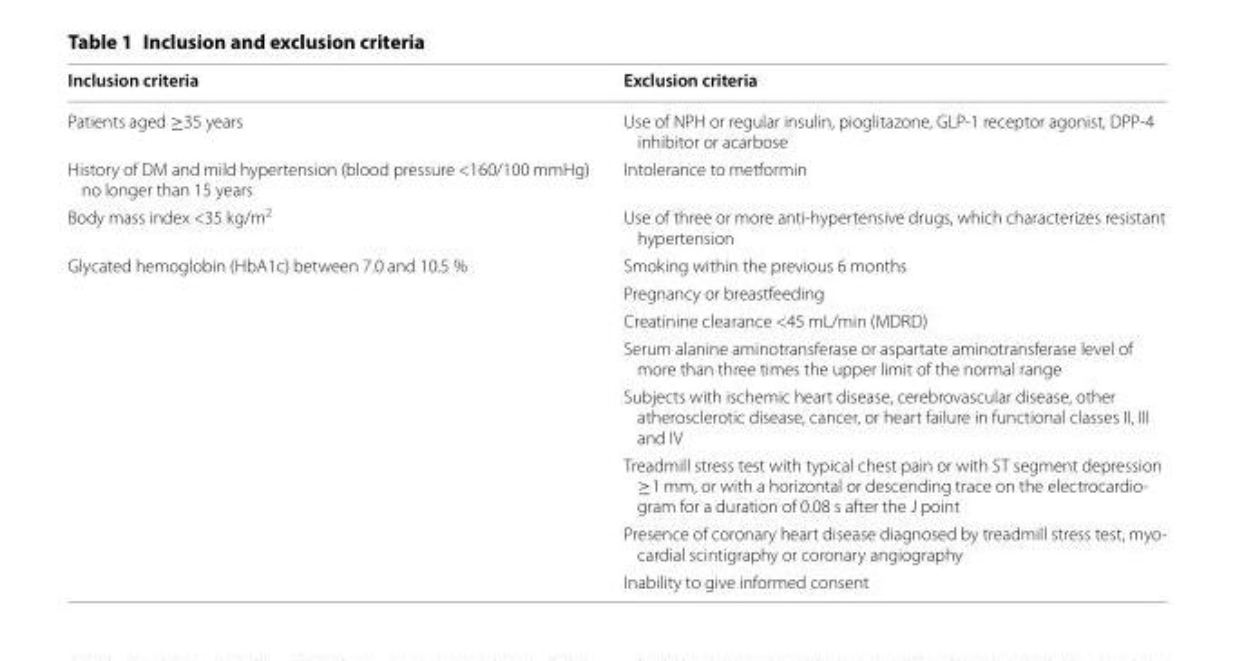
<table><thead><tr><td>Inclusion criteria</td><td>Exclusion criteria</td></tr></thead><tbody><tr><td>Patients aged ≥35 years</td><td>Use of NPH or regular insulin, pioglitazone, GLP‑1 receptor agonist, DPP‑4 inhibitor or acarbose</td></tr><tr><td>History of DM and mild hypertension (blood pressure &lt;160/100 mmHg) no longer than 15 years</td><td>Intolerance to metformin</td></tr><tr><td>Body mass index &lt;35 kg/m<sup>2</sup></td><td>Use of three or more anti‑hypertensive drugs, which characterizes resistant hypertension</td></tr><tr><td rowspan="8">Glycated hemoglobin (HbA1c) between 7.0 and 10.5 %</td><td>Smoking within the previous 6 months</td></tr><tr><td>Pregnancy or breastfeeding</td></tr><tr><td>Creatinine clearance &lt;45 mL/min (MDRD)</td></tr><tr><td>Serum alanine aminotransferase or aspartate aminotransferase level of more than three times the upper limit of the normal range</td></tr><tr><td>Subjects with ischemic heart disease, cerebrovascular disease, other atherosclerotic disease, cancer, or heart failure in functional classes II, III and IV</td></tr><tr><td>Treadmill stress test with typical chest pain or with ST segment depression ≥1 mm, or with a horizontal or descending trace on the electrocardio‑ gram for a duration of 0.08 s after the J point</td></tr><tr><td>Presence of coronary heart disease diagnosed by treadmill stress test, myo‑ cardial scintigraphy or coronary angiography</td></tr><tr><td>Inability to give informed consent</td></tr></tbody></table>